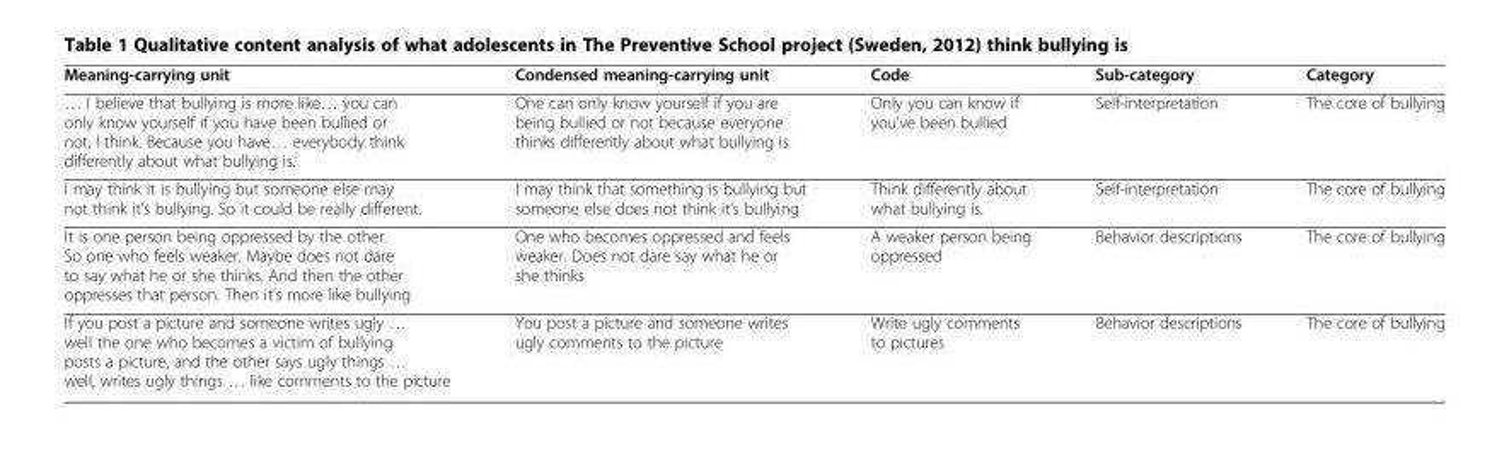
<table><thead><tr><td>Meaning-carrying unit</td><td>Condensed meaning-carrying unit</td><td>Code</td><td>Sub-category</td><td>Category</td></tr></thead><tbody><tr><td>… I believe that bullying is more like… you can only know yourself if you have been bullied or not, I think. Because you have… everybody think differently about what bullying is.</td><td>One can only know yourself if you are being bullied or not because everyone thinks differently about what bullying is</td><td>Only you can know if you’ve been bullied</td><td>Self-interpretation</td><td>The core of bullying</td></tr><tr><td>I may think it is bullying but someone else may not think it’s bullying. So it could be really different.</td><td>I may think that something is bullying but someone else does not think it’s bullying</td><td>Think differently about what bullying is.</td><td>Self-interpretation</td><td>The core of bullying</td></tr><tr><td>It is one person being oppressed by the other. So one who feels weaker. Maybe does not dare to say what he or she thinks. And then the other oppresses that person. Then it’s more like bullying</td><td>One who becomes oppressed and feels weaker. Does not dare say what he or she thinks</td><td>A weaker person being oppressed</td><td>Behavior descriptions</td><td>The core of bullying</td></tr><tr><td>If you post a picture and someone writes ugly … well the one who becomes a victim of bullying posts a picture, and the other says ugly things … well, writes ugly things … like comments to the picture</td><td>You post a picture and someone writes ugly comments to the picture</td><td>Write ugly comments to pictures</td><td>Behavior descriptions</td><td>The core of bullying</td></tr></tbody></table>